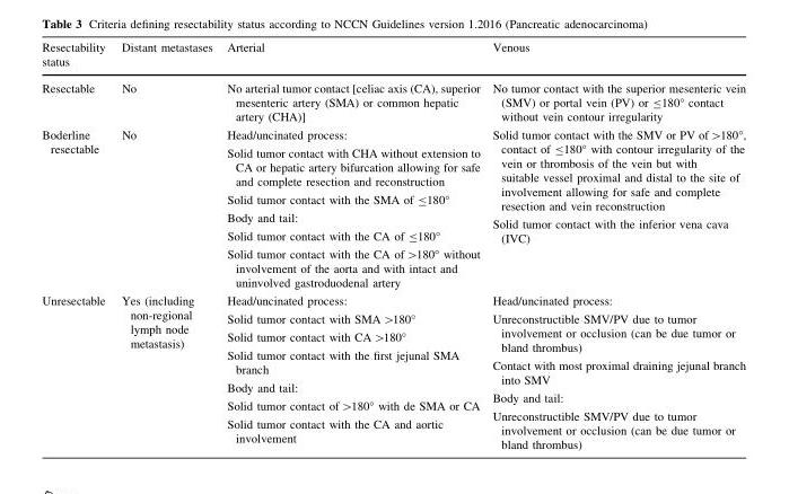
<table><thead><tr><td>Resectability status</td><td>Distant metastases</td><td>Arterial</td><td>Venous</td></tr></thead><tbody><tr><td>Resectable</td><td>No</td><td>No arterial tumor contact [celiac axis (CA), superior mesenteric artery (SMA) or common hepatic artery (CHA)]</td><td>No tumor contact with the superior mesenteric vein (SMV) or portal vein (PV) or ≤180° contact without vein contour irregularity</td></tr><tr><td>Boderline resectable</td><td>No</td><td>Head/uncinated process: Solid tumor contact with CHA without extension to CA or hepatic artery bifurcation allowing for safe and complete resection and reconstruction Solid tumor contact with the SMA of ≤180° Body and tail: Solid tumor contact with the CA of ≤180° Solid tumor contact with the CA of &gt;180° without involvement of the aorta and with intact and uninvolved gastroduodenal artery</td><td>Solid tumor contact with the SMV or PV of&gt;180°, contact of ≤180° with contour irregularity of the vein or thrombosis of the vein but with suitable vessel proximal and distal to the site of involvement allowing for safe and complete resection and vein reconstruction Solid tumor contact with the inferior vena cava (IVC)</td></tr><tr><td>Unresectable</td><td>Yes (including non-regional lymph node metastasis)</td><td>Head/uncinated process: Solid tumor contact with SMA &gt;180° Solid tumor contact with CA &gt;180° Solid tumor contact with the first jejunal SMA branch Body and tail: Solid tumor contact of &gt;180° with de SMA or CA Solid tumor contact with the CA and aortic involvement</td><td>Head/uncinated process: Unreconstructible SMV/PV due to tumor involvement or occlusion (can be due tumor or bland thrombus) Contact with most proximal draining jejunal branch into SMV Body and tail: Unreconstructible SMV/PV due to tumor involvement or occlusion (can be due tumor or bland thrombus)</td></tr></tbody></table>